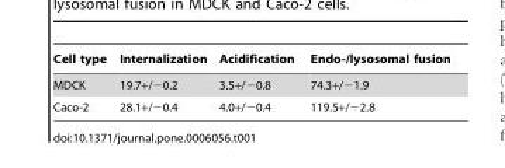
<table><thead><tr><td>Cell type</td><td>Internalization</td><td>Acidification</td><td>Endo-/lysosomal fusion</td></tr></thead><tbody><tr><td>MDCK</td><td>19.7+/−0.2</td><td>3.5+/−0.8</td><td>74.3+/−1.9</td></tr><tr><td>Caco-2</td><td>28.1+/−0.4</td><td>4.0+/−0.4</td><td>119.5+/−2.8</td></tr></tbody></table>